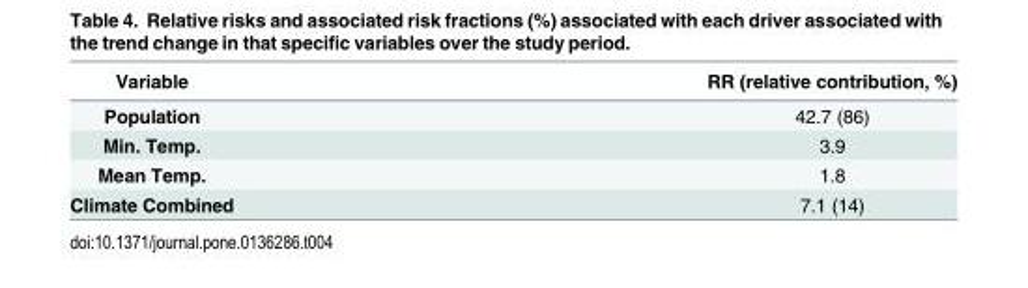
<table><thead><tr><td>Variable</td><td>RR (relative contribution, %)</td></tr></thead><tbody><tr><td>Population</td><td>42.7 (86)</td></tr><tr><td>Min. Temp.</td><td>3.9</td></tr><tr><td>Mean Temp.</td><td>1.8</td></tr><tr><td>Climate Combined</td><td>7.1 (14)</td></tr></tbody></table>